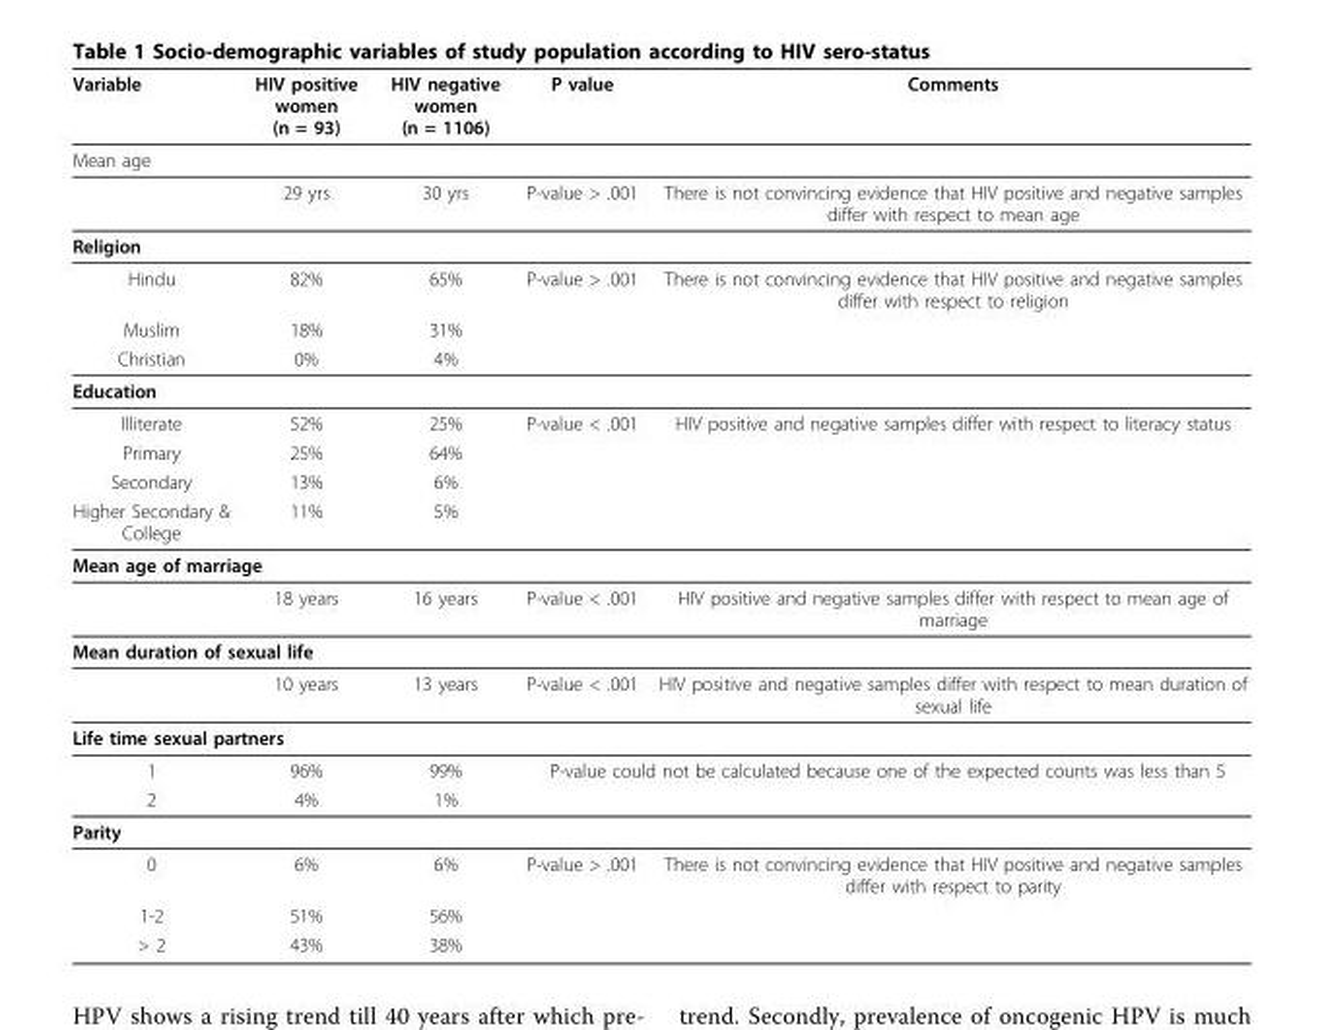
<table><thead><tr><td>Variable</td><td>HIV positive women (n = 93)</td><td>HIV negative women (n = 1106)</td><td>P value</td><td>Comments</td></tr></thead><tbody><tr><td colspan="5">Mean age</td></tr><tr><td></td><td>29 yrs</td><td>30 yrs</td><td>P-value &gt; .001</td><td>There is not convincing evidence that HIV positive and negative samples differ with respect to mean age</td></tr><tr><td colspan="5">Religion</td></tr><tr><td>Hindu</td><td>82%</td><td>65%</td><td>P-value &gt; .001</td><td>There is not convincing evidence that HIV positive and negative samples differ with respect to religion</td></tr><tr><td>Muslim</td><td>18%</td><td>31%</td><td></td><td></td></tr><tr><td>Christian</td><td>0%</td><td>4%</td><td></td><td></td></tr><tr><td colspan="5">Education</td></tr><tr><td>Illiterate</td><td>52%</td><td>25%</td><td>P-value &lt; .001</td><td>HIV positive and negative samples differ with respect to literacy status</td></tr><tr><td>Primary</td><td>25%</td><td>64%</td><td></td><td></td></tr><tr><td>Secondary</td><td>13%</td><td>6%</td><td></td><td></td></tr><tr><td>Higher Secondary &amp; College</td><td>11%</td><td>5%</td><td></td><td></td></tr><tr><td colspan="5">Mean age of marriage</td></tr><tr><td></td><td>18 years</td><td>16 years</td><td>P-value &lt; .001</td><td>HIV positive and negative samples differ with respect to mean age of marriage</td></tr><tr><td colspan="5">Mean duration of sexual life</td></tr><tr><td></td><td>10 years</td><td>13 years</td><td>P-value &lt; .001</td><td>HIV positive and negative samples differ with respect to mean duration of sexual life</td></tr><tr><td colspan="5">Life time sexual partners</td></tr><tr><td>1</td><td>96%</td><td>99%</td><td colspan="2">P-value could not be calculated because one of the expected counts was less than 5</td></tr><tr><td>2</td><td>4%</td><td>1%</td><td></td><td></td></tr><tr><td colspan="5">Parity</td></tr><tr><td>0</td><td>6%</td><td>6%</td><td>P-value &gt; .001</td><td>There is not convincing evidence that HIV positive and negative samples differ with respect to parity</td></tr><tr><td>1-2</td><td>51%</td><td>56%</td><td></td><td></td></tr><tr><td>&gt; 2</td><td>43%</td><td>38%</td><td></td><td></td></tr></tbody></table>